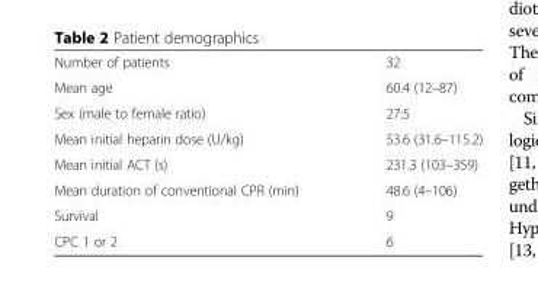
<table><tbody><tr><td>Number of patients</td><td>32</td></tr><tr><td>Mean age</td><td>60.4 (12–87)</td></tr><tr><td>Sex (male to female ratio)</td><td>27:5</td></tr><tr><td>Mean initial heparin dose (U/kg)</td><td>53.6 (31.6–115.2)</td></tr><tr><td>Mean initial ACT (s)</td><td>231.3 (103–359)</td></tr><tr><td>Mean duration of conventional CPR (min)</td><td>48.6 (4–106)</td></tr><tr><td>Survival</td><td>9</td></tr><tr><td>CPC 1 or 2</td><td>6</td></tr></tbody></table>